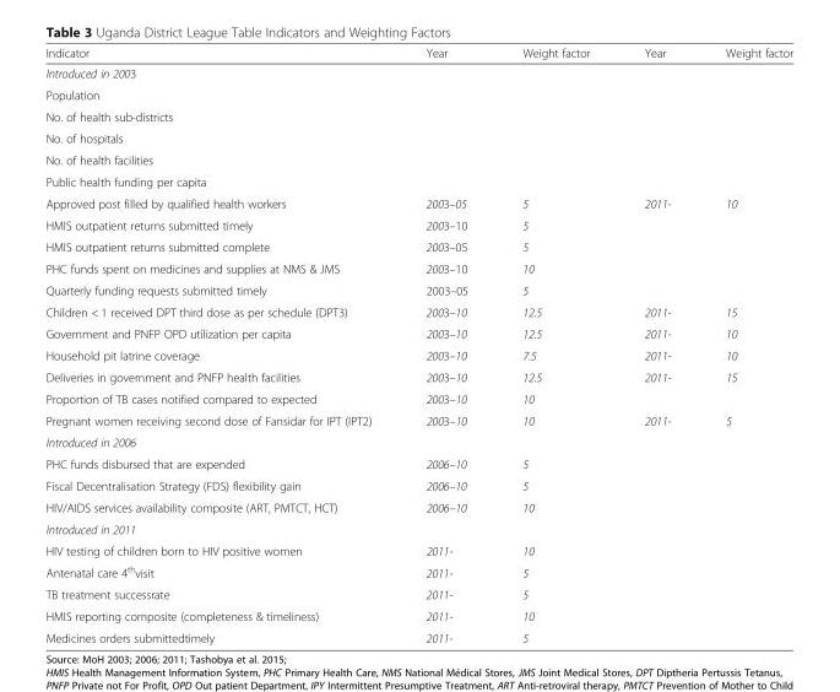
<table><thead><tr><td>Indicator</td><td>Year</td><td>Weight factor</td><td>Year</td><td>Weight factor</td></tr></thead><tbody><tr><td colspan="5">Introduced in 2003</td></tr><tr><td colspan="5">Population</td></tr><tr><td colspan="5">No. of health sub-districts</td></tr><tr><td colspan="5">No. of hospitals</td></tr><tr><td colspan="5">No. of health facilities</td></tr><tr><td colspan="5">Public health funding per capita</td></tr><tr><td>Approved post filled by qualified health workers</td><td>2003–05</td><td>5</td><td>2011-</td><td>10</td></tr><tr><td>HMIS outpatient returns submitted timely</td><td>2003–10</td><td>5</td><td></td><td></td></tr><tr><td>HMIS outpatient returns submitted complete</td><td>2003–05</td><td>5</td><td></td><td></td></tr><tr><td>PHC funds spent on medicines and supplies at NMS &amp; JMS</td><td>2003–10</td><td>10</td><td></td><td></td></tr><tr><td>Quarterly funding requests submitted timely</td><td>2003–05</td><td>5</td><td></td><td></td></tr><tr><td>Children &lt; 1 received DPT third dose as per schedule (DPT3)</td><td>2003–10</td><td>12.5</td><td>2011-</td><td>15</td></tr><tr><td>Government and PNFP OPD utilization per capita</td><td>2003–10</td><td>12.5</td><td>2011-</td><td>10</td></tr><tr><td>Household pit latrine coverage</td><td>2003–10</td><td>7.5</td><td>2011-</td><td>10</td></tr><tr><td>Deliveries in government and PNFP health facilities</td><td>2003–10</td><td>12.5</td><td>2011-</td><td>15</td></tr><tr><td>Proportion of TB cases notified compared to expected</td><td>2003–10</td><td>10</td><td></td><td></td></tr><tr><td>Pregnant women receiving second dose of Fansidar for IPT (IPT2)</td><td>2003–10</td><td>10</td><td>2011-</td><td>5</td></tr><tr><td colspan="5">Introduced in 2006</td></tr><tr><td>PHC funds disbursed that are expended</td><td>2006–10</td><td>5</td><td></td><td></td></tr><tr><td>Fiscal Decentralisation Strategy (FDS) flexibility gain</td><td>2006–10</td><td>5</td><td></td><td></td></tr><tr><td>HIV/AIDS services availability composite (ART, PMTCT, HCT)</td><td>2006–10</td><td>10</td><td></td><td></td></tr><tr><td colspan="5">Introduced in 2011</td></tr><tr><td>HIV testing of children born to HIV positive women</td><td>2011-</td><td>10</td><td></td><td></td></tr><tr><td>Antenatal care 4<sup>th</sup>visit</td><td>2011-</td><td>5</td><td></td><td></td></tr><tr><td>TB treatment successrate</td><td>2011-</td><td>5</td><td></td><td></td></tr><tr><td>HMIS reporting composite (completeness &amp; timeliness)</td><td>2011-</td><td>10</td><td></td><td></td></tr><tr><td>Medicines orders submittedtimely</td><td>2011-</td><td>5</td><td></td><td></td></tr></tbody></table>